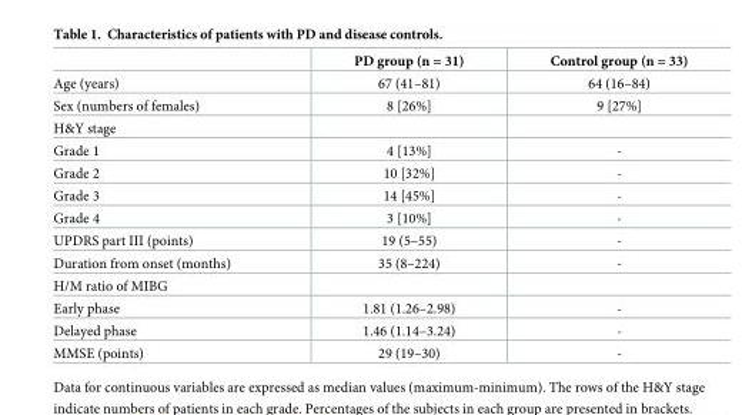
<table><thead><tr><td></td><td>PD group (n = 31)</td><td>Control group (n = 33)</td></tr></thead><tbody><tr><td>Age (years)</td><td>67 (41–81)</td><td>64 (16–84)</td></tr><tr><td>Sex (numbers of females)</td><td>8 [26%]</td><td>9 [27%]</td></tr><tr><td colspan="3">H&amp;Y stage</td></tr><tr><td>Grade 1</td><td>4 [13%]</td><td>-</td></tr><tr><td>Grade 2</td><td>10 [32%]</td><td>-</td></tr><tr><td>Grade 3</td><td>14 [45%]</td><td>-</td></tr><tr><td>Grade 4</td><td>3 [10%]</td><td>-</td></tr><tr><td>UPDRS part III (points)</td><td>19 (5–55)</td><td>-</td></tr><tr><td>Duration from onset (months)</td><td>35 (8–224)</td><td>-</td></tr><tr><td colspan="3">H/M ratio of MIBG</td></tr><tr><td>Early phase</td><td>1.81 (1.26–2.98)</td><td>-</td></tr><tr><td>Delayed phase</td><td>1.46 (1.14–3.24)</td><td>-</td></tr><tr><td>MMSE (points)</td><td>29 (19–30)</td><td>-</td></tr></tbody></table>